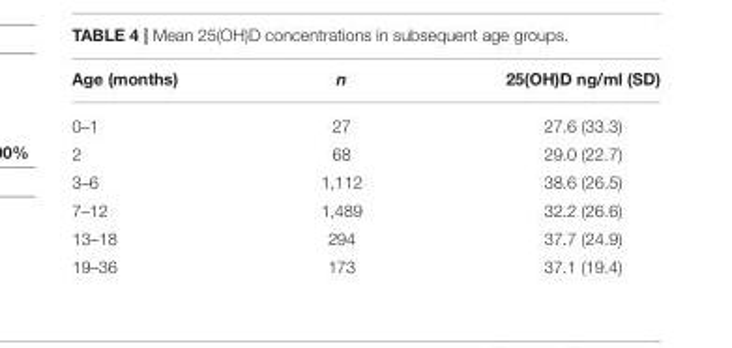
<table><thead><tr><td>Age (months)</td><td>n</td><td>25(OH)D ng/ml (SD)</td></tr></thead><tbody><tr><td>0–1</td><td>27</td><td>27.6 (33.3)</td></tr><tr><td>2</td><td>68</td><td>29.0 (22.7)</td></tr><tr><td>3–6</td><td>1,112</td><td>38.6 (26.5)</td></tr><tr><td>7–12</td><td>1,489</td><td>32.2 (26.6)</td></tr><tr><td>13–18</td><td>294</td><td>37.7 (24.9)</td></tr><tr><td>19–36</td><td>173</td><td>37.1 (19.4)</td></tr></tbody></table>